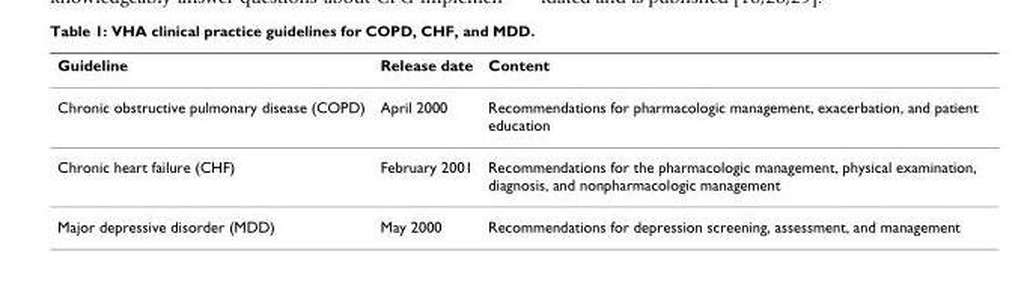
<table><thead><tr><td>Guideline</td><td>Release date</td><td>Content</td></tr></thead><tbody><tr><td>Chronic obstructive pulmonary disease (COPD)</td><td>April 2000</td><td>Recommendations for pharmacologic management, exacerbation, and patient education</td></tr><tr><td>Chronic heart failure (CHF)</td><td>February 2001</td><td>Recommendations for the pharmacologic management, physical examination, diagnosis, and nonpharmacologic management</td></tr><tr><td>Major depressive disorder (MDD)</td><td>May 2000</td><td>Recommendations for depression screening, assessment, and management</td></tr></tbody></table>